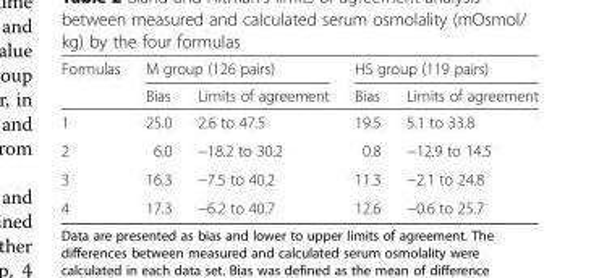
<table><thead><tr><td rowspan="2">Formulas</td><td colspan="2">M group (126 pairs)</td><td colspan="2">HS group (119 pairs)</td></tr><tr><td>Bias</td><td>Limits of agreement</td><td>Bias</td><td>Limits of agreement</td></tr></thead><tbody><tr><td>1</td><td>25.0</td><td>2.6 to 47.5</td><td>19.5</td><td>5.1 to 33.8</td></tr><tr><td>2</td><td>6.0</td><td>−18.2 to 30.2</td><td>0.8</td><td>−12.9 to 14.5</td></tr><tr><td>3</td><td>16.3</td><td>−7.5 to 40.2</td><td>11.3</td><td>−2.1 to 24.8</td></tr><tr><td>4</td><td>17.3</td><td>−6.2 to 40.7</td><td>12.6</td><td>−0.6 to 25.7</td></tr></tbody></table>